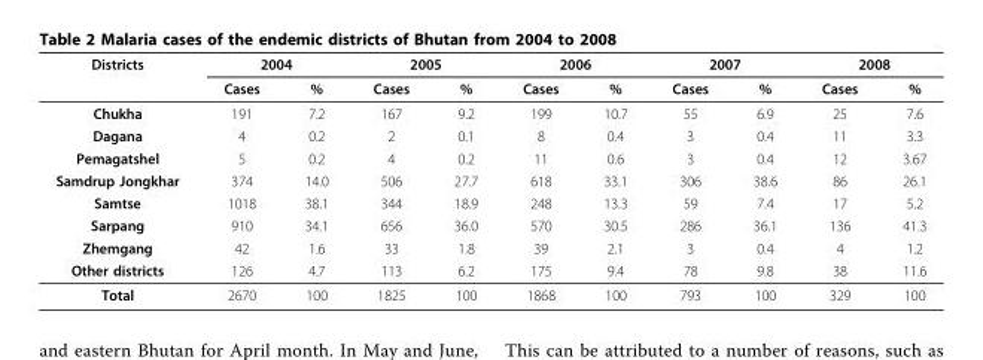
<table><thead><tr><td rowspan="2">Districts</td><td colspan="2">2004</td><td colspan="2">2005</td><td colspan="2">2006</td><td colspan="2">2007</td><td colspan="2">2008</td></tr><tr><td>Cases</td><td>%</td><td>Cases</td><td>%</td><td>Cases</td><td>%</td><td>Cases</td><td>%</td><td>Cases</td><td>%</td></tr></thead><tbody><tr><td>Chukha</td><td>191</td><td>7.2</td><td>167</td><td>9.2</td><td>199</td><td>10.7</td><td>55</td><td>6.9</td><td>25</td><td>7.6</td></tr><tr><td>Dagana</td><td>4</td><td>0.2</td><td>2</td><td>0.1</td><td>8</td><td>0.4</td><td>3</td><td>0.4</td><td>11</td><td>3.3</td></tr><tr><td>Pemagatshel</td><td>5</td><td>0.2</td><td>4</td><td>0.2</td><td>11</td><td>0.6</td><td>3</td><td>0.4</td><td>12</td><td>3.67</td></tr><tr><td>Samdrup Jongkhar</td><td>374</td><td>14.0</td><td>506</td><td>27.7</td><td>618</td><td>33.1</td><td>306</td><td>38.6</td><td>86</td><td>26.1</td></tr><tr><td>Samtse</td><td>1018</td><td>38.1</td><td>344</td><td>18.9</td><td>248</td><td>13.3</td><td>59</td><td>7.4</td><td>17</td><td>5.2</td></tr><tr><td>Sarpang</td><td>910</td><td>34.1</td><td>656</td><td>36.0</td><td>570</td><td>30.5</td><td>286</td><td>36.1</td><td>136</td><td>41.3</td></tr><tr><td>Zhemgang</td><td>42</td><td>1.6</td><td>33</td><td>1.8</td><td>39</td><td>2.1</td><td>3</td><td>0.4</td><td>4</td><td>1.2</td></tr><tr><td>Other districts</td><td>126</td><td>4.7</td><td>113</td><td>6.2</td><td>175</td><td>9.4</td><td>78</td><td>9.8</td><td>38</td><td>11.6</td></tr><tr><td>Total</td><td>2670</td><td>100</td><td>1825</td><td>100</td><td>1868</td><td>100</td><td>793</td><td>100</td><td>329</td><td>100</td></tr></tbody></table>